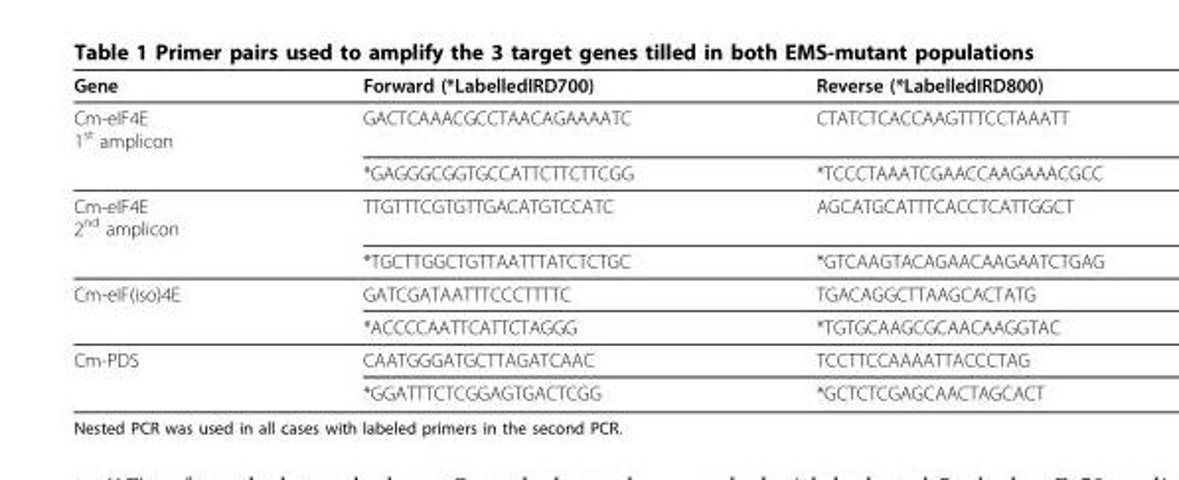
<table><thead><tr><td>Gene</td><td>Forward (*LabelledIRD700)</td><td>Reverse (*LabelledIRD800)</td></tr></thead><tbody><tr><td rowspan="2">Cm-eIF4E 1<sup>st</sup> amplicon</td><td>GACTCAAACGCCTAACAGAAAATC</td><td>CTATCTCACCAAGTTTCCTAAATT</td></tr><tr><td>*GAGGGCGGTGCCATTCTTCTTCGG</td><td>*TCCCTAAATCGAACCAAGAAACGCC</td></tr><tr><td rowspan="2">Cm-eIF4E 2<sup>nd</sup> amplicon</td><td>TTGTTTCGTGTTGACATGTCCATC</td><td>AGCATGCATTTCACCTCATTGGCT</td></tr><tr><td>*TGCTTGGCTGTTAATTTATCTCTGC</td><td>*GTCAAGTACAGAACAAGAATCTGAG</td></tr><tr><td rowspan="2">Cm-eIF(iso)4E</td><td>GATCGATAATTTCCCTTTTC</td><td>TGACAGGCTTAAGCACTATG</td></tr><tr><td>*ACCCCAATTCATTCTAGGG</td><td>*TGTGCAAGCGCAACAAGGTAC</td></tr><tr><td rowspan="2">Cm-PDS</td><td>CAATGGGATGCTTAGATCAAC</td><td>TCCTTCCAAAATTACCCTAG</td></tr><tr><td>*GGATTTCTCGGAGTGACTCGG</td><td>*GCTCTCGAGCAACTAGCACT</td></tr></tbody></table>